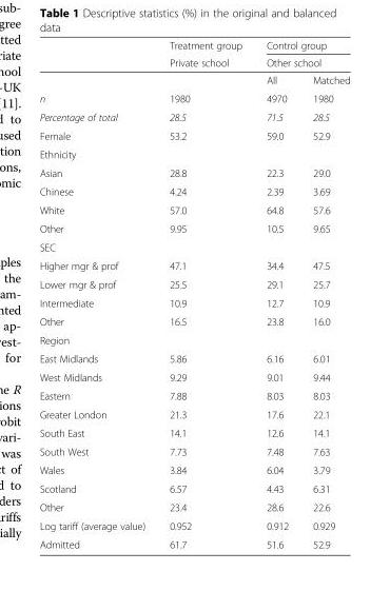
<table><thead><tr><td rowspan="3"></td><td rowspan="3">Treatment group Private school</td><td rowspan="2" colspan="2">Control group Other school</td></tr><tr></tr><tr><td>All</td><td>Matched</td></tr></thead><tbody><tr><td>n</td><td>1980</td><td>4970</td><td>1980</td></tr><tr><td>Percentage of total</td><td>28.5</td><td>71.5</td><td>28.5</td></tr><tr><td>Female</td><td>53.2</td><td>59.0</td><td>52.9</td></tr><tr><td colspan="4">Ethnicity</td></tr><tr><td>Asian</td><td>28.8</td><td>22.3</td><td>29.0</td></tr><tr><td>Chinese</td><td>4.24</td><td>2.39</td><td>3.69</td></tr><tr><td>White</td><td>57.0</td><td>64.8</td><td>57.6</td></tr><tr><td>Other</td><td>9.95</td><td>10.5</td><td>9.65</td></tr><tr><td colspan="4">SEC</td></tr><tr><td>Higher mgr &amp; prof</td><td>47.1</td><td>34.4</td><td>47.5</td></tr><tr><td>Lower mgr &amp; prof</td><td>25.5</td><td>29.1</td><td>25.7</td></tr><tr><td>Intermediate</td><td>10.9</td><td>12.7</td><td>10.9</td></tr><tr><td>Other</td><td>16.5</td><td>23.8</td><td>16.0</td></tr><tr><td colspan="4">Region</td></tr><tr><td>East Midlands</td><td>5.86</td><td>6.16</td><td>6.01</td></tr><tr><td>West Midlands</td><td>9.29</td><td>9.01</td><td>9.44</td></tr><tr><td>Eastern</td><td>7.88</td><td>8.03</td><td>8.03</td></tr><tr><td>Greater London</td><td>21.3</td><td>17.6</td><td>22.1</td></tr><tr><td>South East</td><td>14.1</td><td>12.6</td><td>14.1</td></tr><tr><td>South West</td><td>7.73</td><td>7.48</td><td>7.63</td></tr><tr><td>Wales</td><td>3.84</td><td>6.04</td><td>3.79</td></tr><tr><td>Scotland</td><td>6.57</td><td>4.43</td><td>6.31</td></tr><tr><td>Other</td><td>23.4</td><td>28.6</td><td>22.6</td></tr><tr><td>Log tariff (average value)</td><td>0.952</td><td>0.912</td><td>0.929</td></tr><tr><td>Admitted</td><td>61.7</td><td>51.6</td><td>52.9</td></tr></tbody></table>